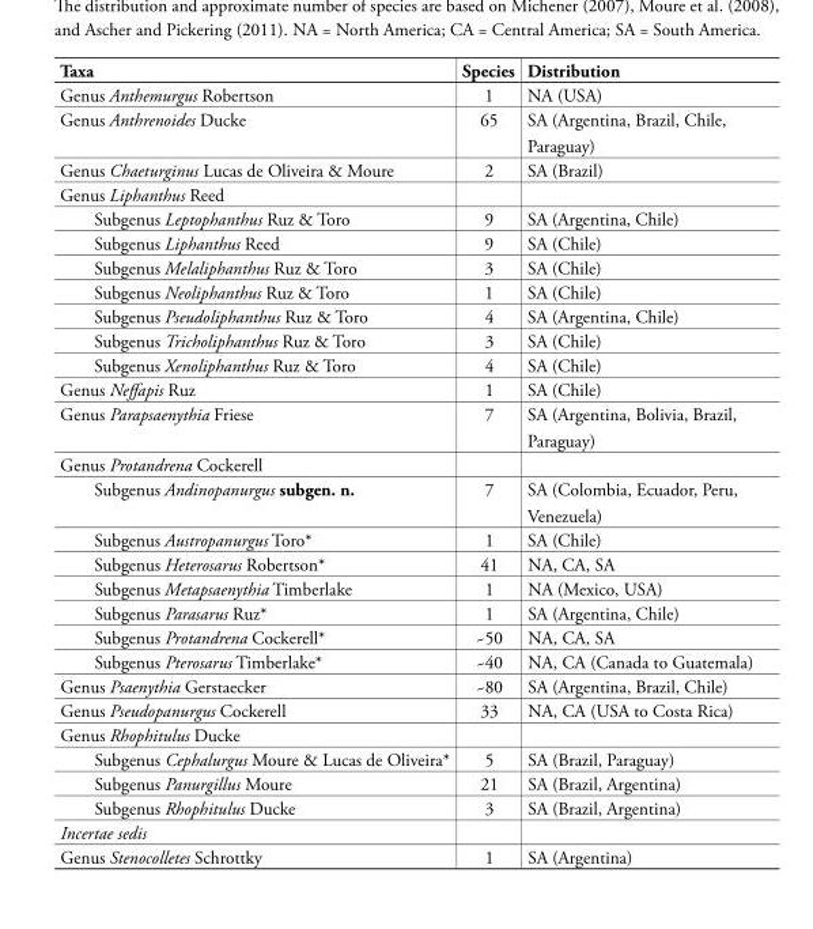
<table><thead><tr><td>Taxa</td><td>Species</td><td>Distribution</td></tr></thead><tbody><tr><td>Genus Anthemurgus Robertson</td><td>1</td><td>NA (USA)</td></tr><tr><td>Genus Anthrenoides Ducke</td><td>65</td><td>SA (Argentina, Brazil, Chile, Paraguay)</td></tr><tr><td>Genus Chaeturginus Lucas de Oliveira &amp; Moure</td><td>2</td><td>SA (Brazil)</td></tr><tr><td colspan="3">Genus Liphanthus Reed</td></tr><tr><td>Subgenus Leptophanthus Ruz &amp; Toro</td><td>9</td><td>SA (Argentina, Chile)</td></tr><tr><td>Subgenus Liphanthus Reed</td><td>9</td><td>SA (Chile)</td></tr><tr><td>Subgenus Melaliphanthus Ruz &amp; Toro</td><td>3</td><td>SA (Chile)</td></tr><tr><td>Subgenus Neoliphanthus Ruz &amp; Toro</td><td>1</td><td>SA (Chile)</td></tr><tr><td>Subgenus Pseudoliphanthus Ruz &amp; Toro</td><td>4</td><td>SA (Argentina, Chile)</td></tr><tr><td>Subgenus Tricholiphanthus Ruz &amp; Toro</td><td>3</td><td>SA (Chile)</td></tr><tr><td>Subgenus Xenoliphanthus Ruz &amp; Toro</td><td>4</td><td>SA (Chile)</td></tr><tr><td>Genus Neffapis Ruz</td><td>1</td><td>SA (Chile)</td></tr><tr><td>Genus Parapsaenythia Friese</td><td>7</td><td>SA (Argentina, Bolivia, Brazil, Paraguay)</td></tr><tr><td colspan="3">Genus Protandrena Cockerell</td></tr><tr><td>Subgenus Andinopanurgus subgen. n.</td><td>7</td><td>SA (Colombia, Ecuador, Peru, Venezuela)</td></tr><tr><td>Subgenus Austropanurgus Toro*</td><td>1</td><td>SA (Chile)</td></tr><tr><td>Subgenus Heterosarus Robertson*</td><td>41</td><td>NA, CA, SA</td></tr><tr><td>Subgenus Metapsaenythia Timberlake</td><td>1</td><td>NA (Mexico, USA)</td></tr><tr><td>Subgenus Parasarus Ruz*</td><td>1</td><td>SA (Argentina, Chile)</td></tr><tr><td>Subgenus Protandrena Cockerell*</td><td>~50</td><td>NA, CA, SA</td></tr><tr><td>Subgenus Pterosarus Timberlake*</td><td>~40</td><td>NA, CA (Canada to Guatemala)</td></tr><tr><td>Genus Psaenythia Gerstaecker</td><td>~80</td><td>SA (Argentina, Brazil, Chile)</td></tr><tr><td>Genus Pseudopanurgus Cockerell</td><td>33</td><td>NA, CA (USA to Costa Rica)</td></tr><tr><td colspan="3">Genus Rhophitulus Ducke</td></tr><tr><td>Subgenus Cephalurgus Moure &amp; Lucas de Oliveira*</td><td>5</td><td>SA (Brazil, Paraguay)</td></tr><tr><td>Subgenus Panurgillus Moure</td><td>21</td><td>SA (Brazil, Argentina)</td></tr><tr><td>Subgenus Rhophitulus Ducke</td><td>3</td><td>SA (Brazil, Argentina)</td></tr><tr><td colspan="3">Incertae sedis</td></tr><tr><td>Genus Stenocolletes Schrottky</td><td>1</td><td>SA (Argentina)</td></tr></tbody></table>